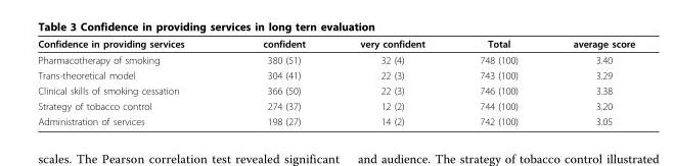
<table><thead><tr><td>Confidence in providing services</td><td>confident</td><td>very confident</td><td>Total</td><td>average score</td></tr></thead><tbody><tr><td>Pharmacotherapy of smoking</td><td>380 (51)</td><td>32 (4)</td><td>748 (100)</td><td>3.40</td></tr><tr><td>Trans-theoretical model</td><td>304 (41)</td><td>22 (3)</td><td>743 (100)</td><td>3.29</td></tr><tr><td>Clinical skills of smoking cessation</td><td>366 (50)</td><td>22 (3)</td><td>746 (100)</td><td>3.38</td></tr><tr><td>Strategy of tobacco control</td><td>274 (37)</td><td>12 (2)</td><td>744 (100)</td><td>3.20</td></tr><tr><td>Administration of services</td><td>198 (27)</td><td>14 (2)</td><td>742 (100)</td><td>3.05</td></tr></tbody></table>